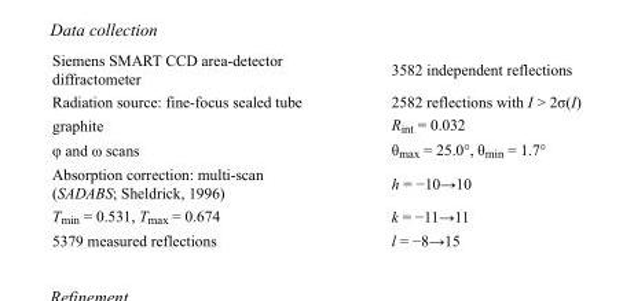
<table><tbody><tr><td>Siemens SMART CCD area-detector diffractometer</td><td>3582 independent reflections</td></tr><tr><td>Radiation source: fine-focus sealed tube</td><td>2582 reflections with I &gt; 2σ(I)</td></tr><tr><td>graphite</td><td>R<sub>int</sub> = 0.032</td></tr><tr><td>φ and ω scans</td><td>θ<sub>max</sub> = 25.0°, θ<sub>min</sub> = 1.7°</td></tr><tr><td>Absorption correction: multi-scan (SADABS; Sheldrick, 1996)</td><td>h = −10→10</td></tr><tr><td>T<sub>min</sub> = 0.531, T<sub>max</sub> = 0.674</td><td>k = −11→11</td></tr><tr><td>5379 measured reflections</td><td>l = −8→15</td></tr></tbody></table>